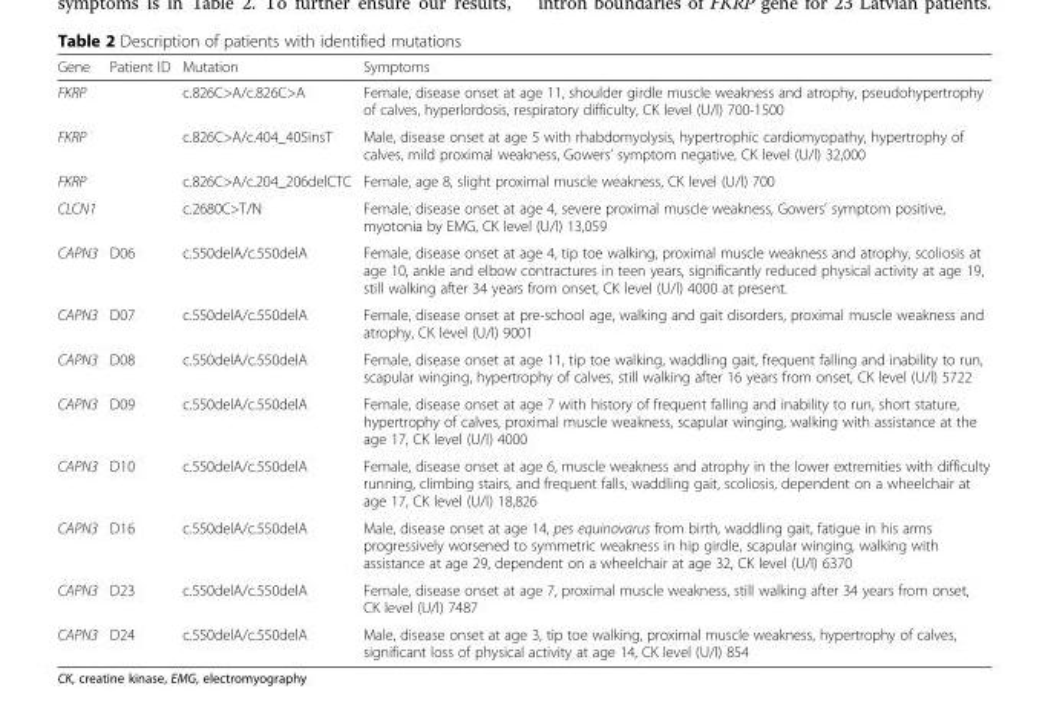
<table><thead><tr><td>Gene</td><td>Patient ID</td><td>Mutation</td><td>Symptoms</td></tr></thead><tbody><tr><td>FKRP</td><td></td><td>c.826C&gt;A/c.826C&gt;A</td><td>Female, disease onset at age 11, shoulder girdle muscle weakness and atrophy, pseudohypertrophy of calves, hyperlordosis, respiratory difficulty, CK level (U/l) 700-1500</td></tr><tr><td>FKRP</td><td></td><td>c.826C&gt;A/c.404_405insT</td><td>Male, disease onset at age 5 with rhabdomyolysis, hypertrophic cardiomyopathy, hypertrophy of calves, mild proximal weakness, Gowers’ symptom negative, CK level (U/l) 32,000</td></tr><tr><td>FKRP</td><td></td><td>c.826C&gt;A/c.204_206delCTC</td><td>Female, age 8, slight proximal muscle weakness, CK level (U/l) 700</td></tr><tr><td>CLCN1</td><td></td><td>c.2680C&gt;T/N</td><td>Female, disease onset at age 4, severe proximal muscle weakness, Gowers’ symptom positive, myotonia by EMG, CK level (U/l) 13,059</td></tr><tr><td>CAPN3</td><td>D06</td><td>c.550delA/c.550delA</td><td>Female, disease onset at age 4, tip toe walking, proximal muscle weakness and atrophy, scoliosis at age 10, ankle and elbow contractures in teen years, significantly reduced physical activity at age 19, still walking after 34 years from onset, CK level (U/l) 4000 at present.</td></tr><tr><td>CAPN3</td><td>D07</td><td>c.550delA/c.550delA</td><td>Female, disease onset at pre-school age, walking and gait disorders, proximal muscle weakness and atrophy, CK level (U/l) 9001</td></tr><tr><td>CAPN3</td><td>D08</td><td>c.550delA/c.550delA</td><td>Female, disease onset at age 11, tip toe walking, waddling gait, frequent falling and inability to run, scapular winging, hypertrophy of calves, still walking after 16 years from onset, CK level (U/l) 5722</td></tr><tr><td>CAPN3</td><td>D09</td><td>c.550delA/c.550delA</td><td>Female, disease onset at age 7 with history of frequent falling and inability to run, short stature, hypertrophy of calves, proximal muscle weakness, scapular winging, walking with assistance at the age 17, CK level (U/l) 4000</td></tr><tr><td>CAPN3</td><td>D10</td><td>c.550delA/c.550delA</td><td>Female, disease onset at age 6, muscle weakness and atrophy in the lower extremities with difficulty running, climbing stairs, and frequent falls, waddling gait, scoliosis, dependent on a wheelchair at age 17, CK level (U/l) 18,826</td></tr><tr><td>CAPN3</td><td>D16</td><td>c.550delA/c.550delA</td><td>Male, disease onset at age 14, pes equinovarus from birth, waddling gait, fatigue in his arms progressively worsened to symmetric weakness in hip girdle, scapular winging, walking with assistance at age 29, dependent on a wheelchair at age 32, CK level (U/l) 6370</td></tr><tr><td>CAPN3</td><td>D23</td><td>c.550delA/c.550delA</td><td>Female, disease onset at age 7, proximal muscle weakness, still walking after 34 years from onset, CK level (U/l) 7487</td></tr><tr><td>CAPN3</td><td>D24</td><td>c.550delA/c.550delA</td><td>Male, disease onset at age 3, tip toe walking, proximal muscle weakness, hypertrophy of calves, significant loss of physical activity at age 14, CK level (U/l) 854</td></tr></tbody></table>